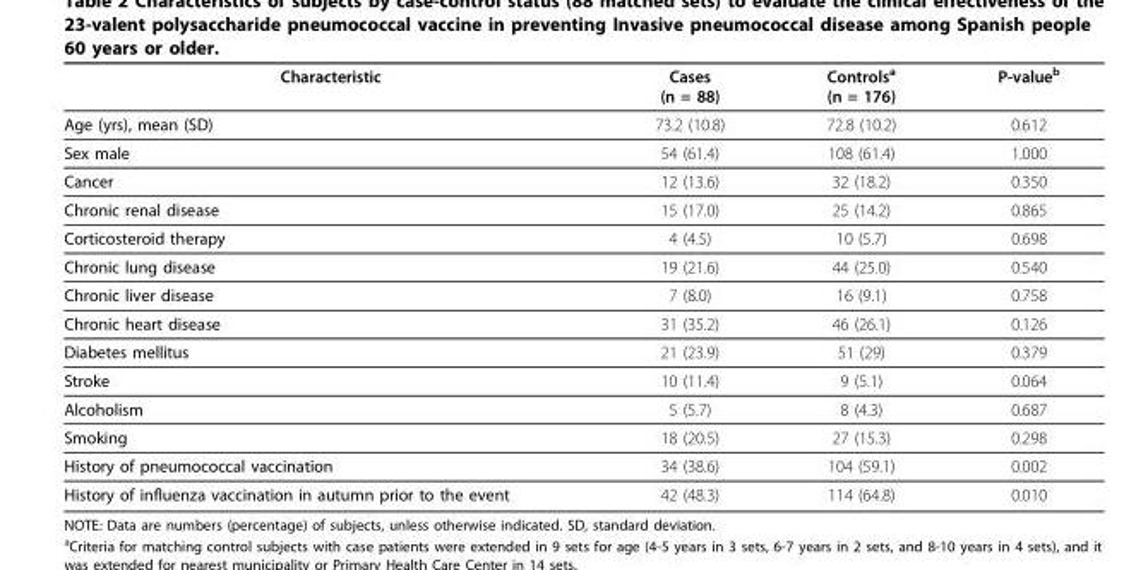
<table><thead><tr><td>Characteristic</td><td>Cases (n = 88)</td><td>Controls<sup>a</sup> (n = 176)</td><td>P-value<sup>b</sup></td></tr></thead><tbody><tr><td>Age (yrs), mean (SD)</td><td>73.2 (10.8)</td><td>72.8 (10.2)</td><td>0.612</td></tr><tr><td>Sex male</td><td>54 (61.4)</td><td>108 (61.4)</td><td>1.000</td></tr><tr><td>Cancer</td><td>12 (13.6)</td><td>32 (18.2)</td><td>0.350</td></tr><tr><td>Chronic renal disease</td><td>15 (17.0)</td><td>25 (14.2)</td><td>0.865</td></tr><tr><td>Corticosteroid therapy</td><td>4 (4.5)</td><td>10 (5.7)</td><td>0.698</td></tr><tr><td>Chronic lung disease</td><td>19 (21.6)</td><td>44 (25.0)</td><td>0.540</td></tr><tr><td>Chronic liver disease</td><td>7 (8.0)</td><td>16 (9.1)</td><td>0.758</td></tr><tr><td>Chronic heart disease</td><td>31 (35.2)</td><td>46 (26.1)</td><td>0.126</td></tr><tr><td>Diabetes mellitus</td><td>21 (23.9)</td><td>51 (29)</td><td>0.379</td></tr><tr><td>Stroke</td><td>10 (11.4)</td><td>9 (5.1)</td><td>0.064</td></tr><tr><td>Alcoholism</td><td>5 (5.7)</td><td>8 (4.3)</td><td>0.687</td></tr><tr><td>Smoking</td><td>18 (20.5)</td><td>27 (15.3)</td><td>0.298</td></tr><tr><td>History of pneumococcal vaccination</td><td>34 (38.6)</td><td>104 (59.1)</td><td>0.002</td></tr><tr><td>History of influenza vaccination in autumn prior to the event</td><td>42 (48.3)</td><td>114 (64.8)</td><td>0.010</td></tr></tbody></table>